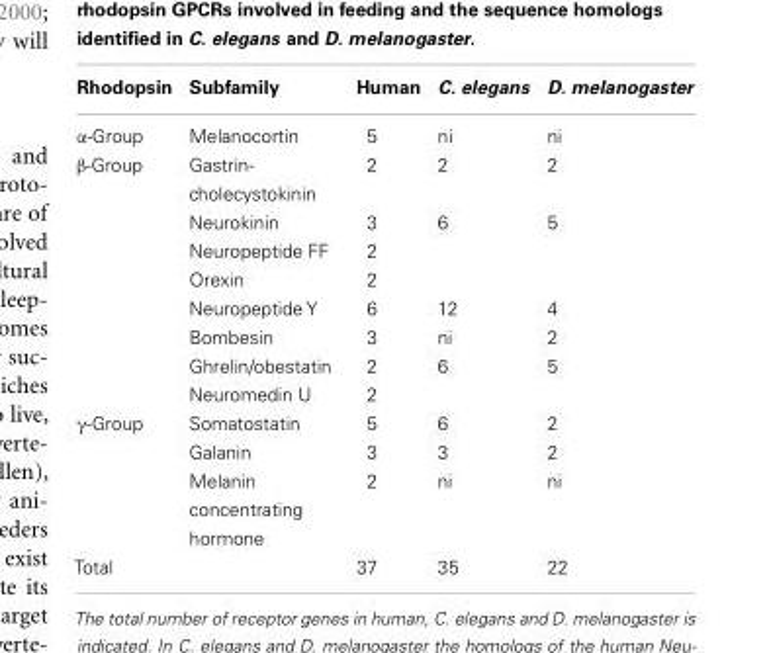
<table><thead><tr><td>Rhodopsin</td><td>Subfamily</td><td>Human</td><td>C. elegans</td><td>D. melanogaster</td></tr></thead><tbody><tr><td>α-Group</td><td>Melanocortin</td><td>5</td><td>ni</td><td>ni</td></tr><tr><td rowspan="8">β-Group</td><td>Gastrin- cholecystokinin</td><td>2</td><td>2</td><td>2</td></tr><tr><td>Neurokinin</td><td>3</td><td>6</td><td>5</td></tr><tr><td>Neuropeptide FF</td><td>2</td><td></td><td></td></tr><tr><td>Orexin</td><td>2</td><td></td><td></td></tr><tr><td>Neuropeptide Y</td><td>6</td><td>12</td><td>4</td></tr><tr><td>Bombesin</td><td>3</td><td>ni</td><td>2</td></tr><tr><td>Ghrelin/obestatin</td><td>2</td><td>6</td><td>5</td></tr><tr><td>Neuromedin U</td><td>2</td><td></td><td></td></tr><tr><td rowspan="3">γ-Group</td><td>Somatostatin</td><td>5</td><td>6</td><td>2</td></tr><tr><td>Galanin</td><td>3</td><td>3</td><td>2</td></tr><tr><td>Melanin concentrating hormone</td><td>2</td><td>ni</td><td>ni</td></tr><tr><td>Total</td><td></td><td>37</td><td>35</td><td>22</td></tr></tbody></table>